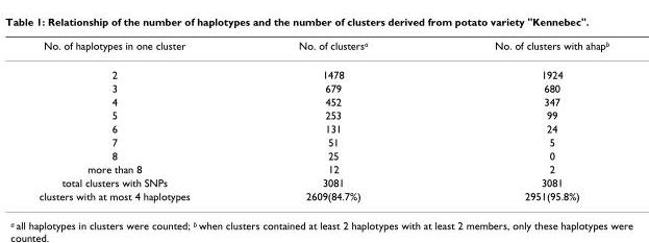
<table><thead><tr><td>No. of haplotypes in one cluster</td><td>No. of clusters<sup>a</sup></td><td>No. of clusters with ahap<sup>b</sup></td></tr></thead><tbody><tr><td>2</td><td>1478</td><td>1924</td></tr><tr><td>3</td><td>679</td><td>680</td></tr><tr><td>4</td><td>452</td><td>347</td></tr><tr><td>5</td><td>253</td><td>99</td></tr><tr><td>6</td><td>131</td><td>24</td></tr><tr><td>7</td><td>51</td><td>5</td></tr><tr><td>8</td><td>25</td><td>0</td></tr><tr><td>more than 8</td><td>12</td><td>2</td></tr><tr><td>total clusters with SNPs</td><td>3081</td><td>3081</td></tr><tr><td>clusters with at most 4 haplotypes</td><td>2609(84.7%)</td><td>2951(95.8%)</td></tr></tbody></table>